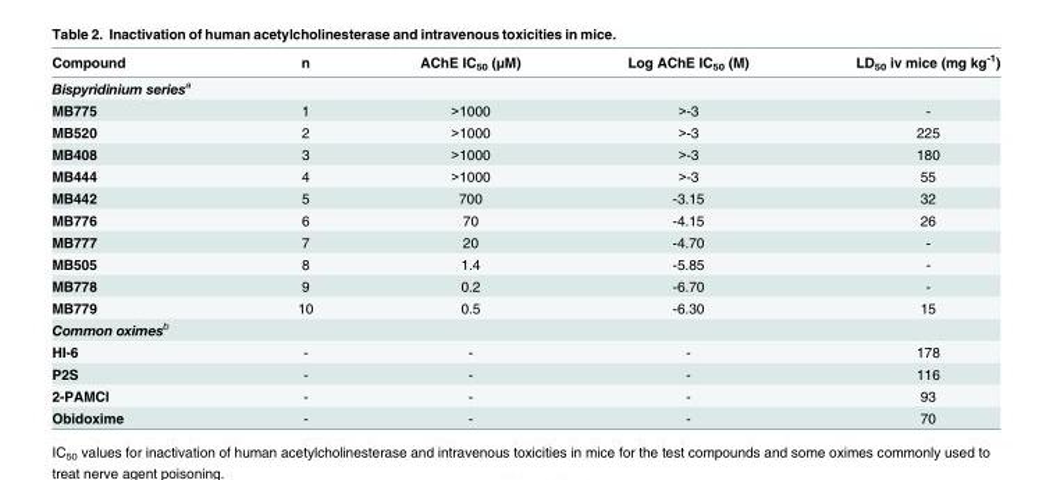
<table><thead><tr><td>Compound</td><td>n</td><td>AChE IC<sub>50</sub> (μM)</td><td>Log AChE IC<sub>50</sub> (M)</td><td>LD<sub>50</sub> iv mice (mg kg<sup>-1</sup>)</td></tr></thead><tbody><tr><td colspan="5">Bispyridinium series<sup>a</sup></td></tr><tr><td>MB775</td><td>1</td><td>&gt;1000</td><td>&gt;-3</td><td>-</td></tr><tr><td>MB520</td><td>2</td><td>&gt;1000</td><td>&gt;-3</td><td>225</td></tr><tr><td>MB408</td><td>3</td><td>&gt;1000</td><td>&gt;-3</td><td>180</td></tr><tr><td>MB444</td><td>4</td><td>&gt;1000</td><td>&gt;-3</td><td>55</td></tr><tr><td>MB442</td><td>5</td><td>700</td><td>-3.15</td><td>32</td></tr><tr><td>MB776</td><td>6</td><td>70</td><td>-4.15</td><td>26</td></tr><tr><td>MB777</td><td>7</td><td>20</td><td>-4.70</td><td>-</td></tr><tr><td>MB505</td><td>8</td><td>1.4</td><td>-5.85</td><td>-</td></tr><tr><td>MB778</td><td>9</td><td>0.2</td><td>-6.70</td><td>-</td></tr><tr><td>MB779</td><td>10</td><td>0.5</td><td>-6.30</td><td>15</td></tr><tr><td colspan="5">Common oximes<sup>b</sup></td></tr><tr><td>HI-6</td><td>-</td><td>-</td><td>-</td><td>178</td></tr><tr><td>P2S</td><td>-</td><td>-</td><td>-</td><td>116</td></tr><tr><td>2-PAMCl</td><td>-</td><td>-</td><td>-</td><td>93</td></tr><tr><td>Obidoxime</td><td>-</td><td>-</td><td>-</td><td>70</td></tr></tbody></table>